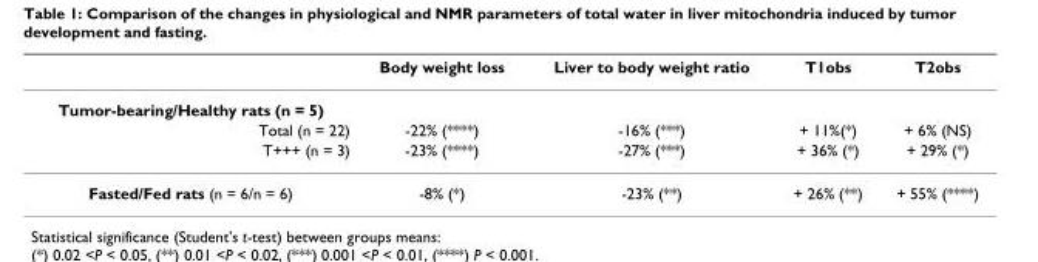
<table><thead><tr><td></td><td>Body weight loss</td><td>Liver to body weight ratio</td><td>T1obs</td><td>T2obs</td></tr></thead><tbody><tr><td colspan="5">Tumor-bearing/Healthy rats (n = 5)</td></tr><tr><td>Total (n = 22)</td><td>-22% (****)</td><td>-16% (***)</td><td>+ 11%(*)</td><td>+ 6% (NS)</td></tr><tr><td>T+++ (n = 3)</td><td>-23% (****)</td><td>-27% (***)</td><td>+ 36% (*)</td><td>+ 29% (*)</td></tr><tr><td>Fasted/Fed rats (n = 6/n = 6)</td><td>-8% (*)</td><td>-23% (**)</td><td>+ 26% (**)</td><td>+ 55% (****)</td></tr></tbody></table>